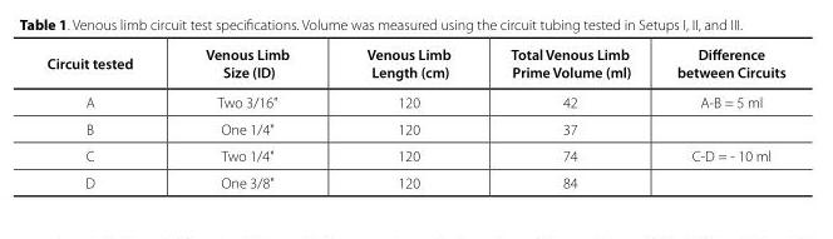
<table><thead><tr><td>Circuit tested</td><td>Venous Limb Size (ID)</td><td>Venous Limb Length (cm)</td><td>Total Venous Limb Prime Volume (ml)</td><td>Difference between Circuits</td></tr></thead><tbody><tr><td>A</td><td>Two 3/16&quot;</td><td>120</td><td>42</td><td>A-B = 5 ml</td></tr><tr><td>B</td><td>One 1/4&quot;</td><td>120</td><td>37</td><td></td></tr><tr><td>C</td><td>Two 1/4&quot;</td><td>120</td><td>74</td><td>C-D = - 10 ml</td></tr><tr><td>D</td><td>One 3/8&quot;</td><td>120</td><td>84</td><td></td></tr></tbody></table>